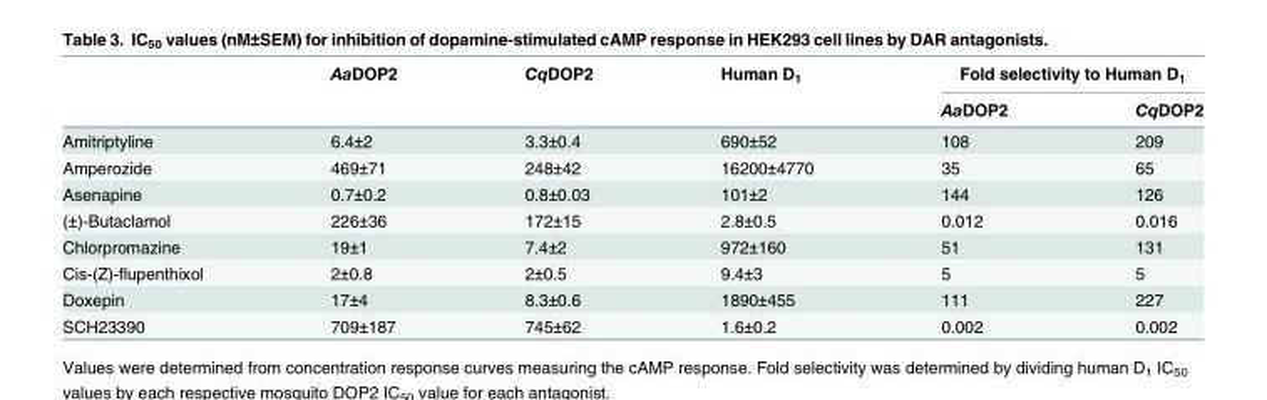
<table><thead><tr><td rowspan="2"></td><td rowspan="2">AaDOP2</td><td rowspan="2">CqDOP2</td><td rowspan="2">Human D<sub>1</sub></td><td colspan="2">Fold selectivity to Human D<sub>1</sub></td></tr><tr><td>AaDOP2</td><td>CqDOP2</td></tr></thead><tbody><tr><td>Amitriptyline</td><td>6.4±2</td><td>3.3±0.4</td><td>690±52</td><td>108</td><td>209</td></tr><tr><td>Amperozide</td><td>469±71</td><td>248±42</td><td>16200±4770</td><td>35</td><td>65</td></tr><tr><td>Asenapine</td><td>0.7±0.2</td><td>0.8±0.03</td><td>101±2</td><td>144</td><td>126</td></tr><tr><td>(±)-Butaclamol</td><td>226±36</td><td>172±15</td><td>2.8±0.5</td><td>0.012</td><td>0.016</td></tr><tr><td>Chlorpromazine</td><td>19±1</td><td>7.4±2</td><td>972±160</td><td>51</td><td>131</td></tr><tr><td>Cis-(Z)-flupenthixol</td><td>2±0.8</td><td>2±0.5</td><td>9.4±3</td><td>5</td><td>5</td></tr><tr><td>Doxepin</td><td>17±4</td><td>8.3±0.6</td><td>1890±455</td><td>111</td><td>227</td></tr><tr><td>SCH23390</td><td>709±187</td><td>745±62</td><td>1.6±0.2</td><td>0.002</td><td>0.002</td></tr></tbody></table>